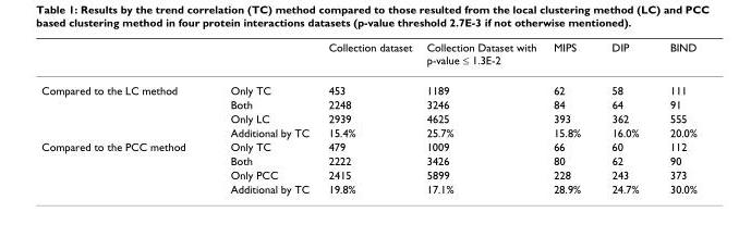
<table><thead><tr><td></td><td></td><td>Collection dataset</td><td>Collection Dataset with p-value ≤ 1.3E-2</td><td>MIPS</td><td>DIP</td><td>BIND</td></tr></thead><tbody><tr><td rowspan="4">Compared to the LC method</td><td>Only TC</td><td>453</td><td>1189</td><td>62</td><td>58</td><td>111</td></tr><tr><td>Both</td><td>2248</td><td>3246</td><td>84</td><td>64</td><td>91</td></tr><tr><td>Only LC</td><td>2939</td><td>4625</td><td>393</td><td>362</td><td>555</td></tr><tr><td>Additional by TC</td><td>15.4%</td><td>25.7%</td><td>15.8%</td><td>16.0%</td><td>20.0%</td></tr><tr><td rowspan="4">Compared to the PCC method</td><td>Only TC</td><td>479</td><td>1009</td><td>66</td><td>60</td><td>112</td></tr><tr><td>Both</td><td>2222</td><td>3426</td><td>80</td><td>62</td><td>90</td></tr><tr><td>Only PCC</td><td>2415</td><td>5899</td><td>228</td><td>243</td><td>373</td></tr><tr><td>Additional by TC</td><td>19.8%</td><td>17.1%</td><td>28.9%</td><td>24.7%</td><td>30.0%</td></tr></tbody></table>